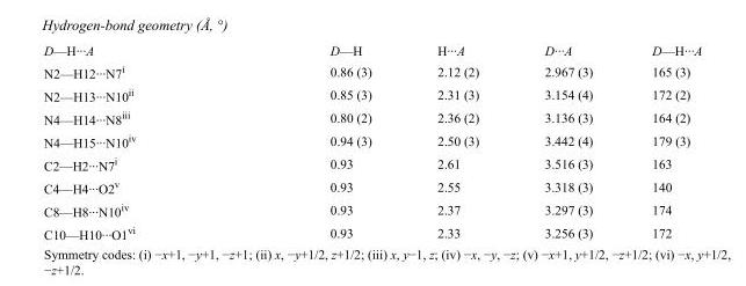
<table><tbody><tr><td>D—H···A</td><td>D—H</td><td>H···A</td><td>D···A</td><td>D—H···A</td></tr><tr><td>N2—H12···N7<sup>i</sup></td><td>0.86 (3)</td><td>2.12 (2)</td><td>2.967 (3)</td><td>165 (3)</td></tr><tr><td>N2—H13···N10<sup>ii</sup></td><td>0.85 (3)</td><td>2.31 (3)</td><td>3.154 (4)</td><td>172 (2)</td></tr><tr><td>N4—H14···N8<sup>iii</sup></td><td>0.80 (2)</td><td>2.36 (2)</td><td>3.136 (3)</td><td>164 (2)</td></tr><tr><td>N4—H15···N10<sup>iv</sup></td><td>0.94 (3)</td><td>2.50 (3)</td><td>3.442 (4)</td><td>179 (3)</td></tr><tr><td>C2—H2···N7<sup>i</sup></td><td>0.93</td><td>2.61</td><td>3.516 (3)</td><td>163</td></tr><tr><td>C4—H4···O2<sup>v</sup></td><td>0.93</td><td>2.55</td><td>3.318 (3)</td><td>140</td></tr><tr><td>C8—H8···N10<sup>iv</sup></td><td>0.93</td><td>2.37</td><td>3.297 (3)</td><td>174</td></tr><tr><td>C10—H10···O1<sup>vi</sup></td><td>0.93</td><td>2.33</td><td>3.256 (3)</td><td>172</td></tr></tbody></table>